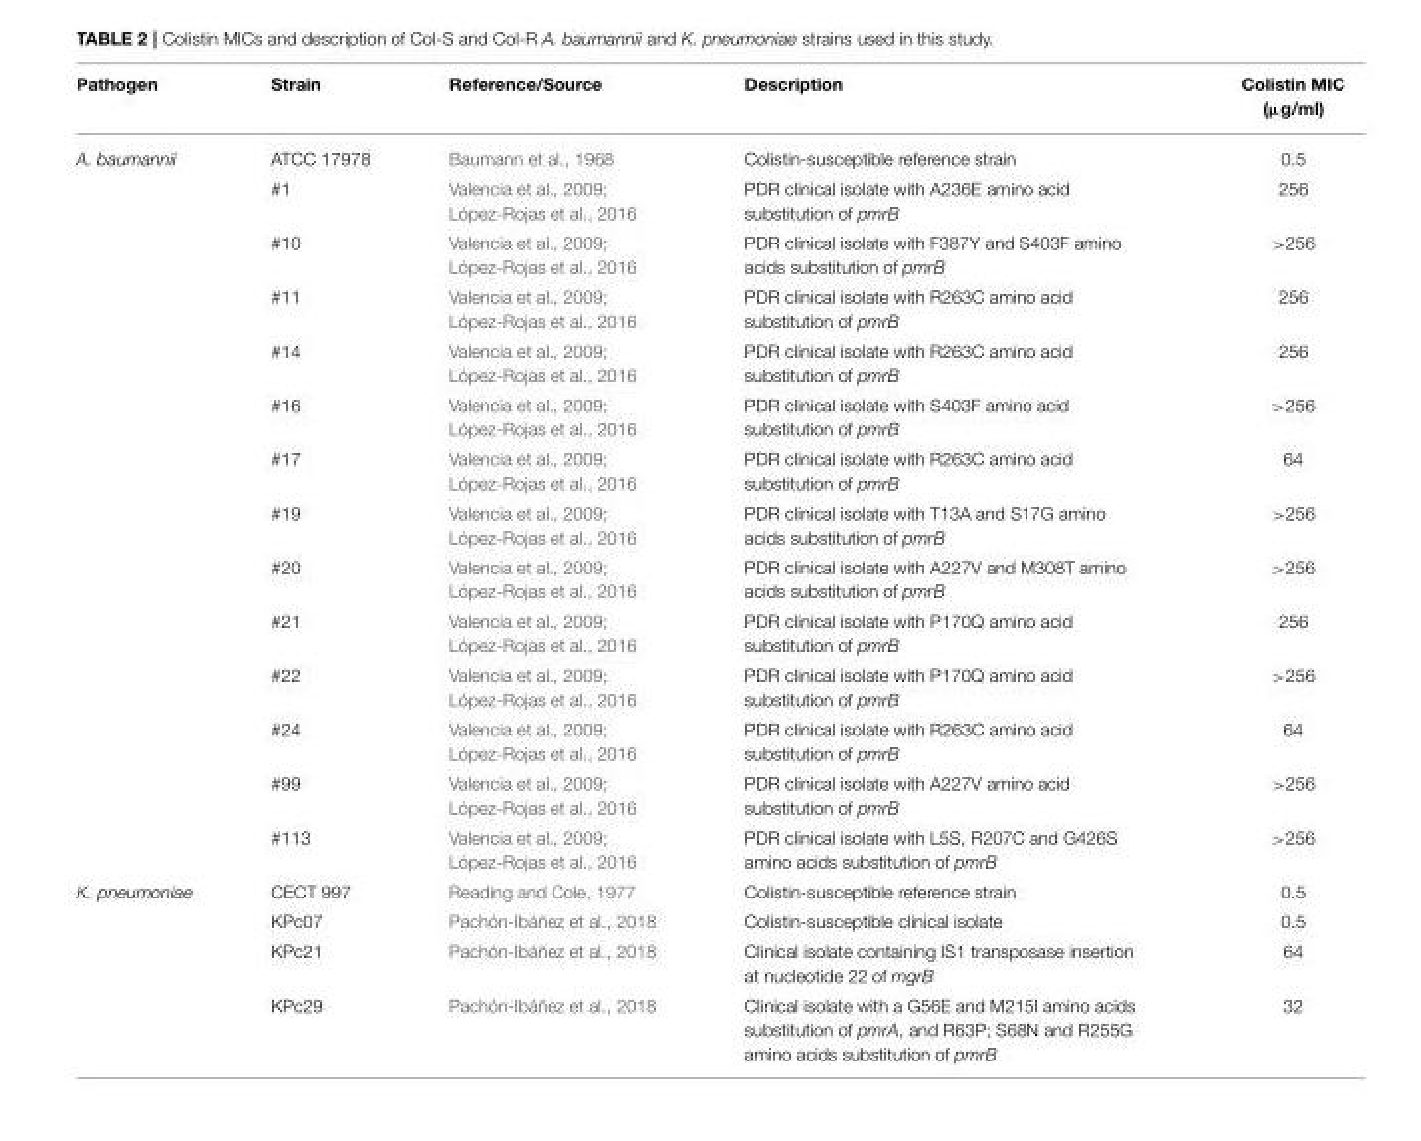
<table><thead><tr><td>Pathogen</td><td>Strain</td><td>Reference/Source</td><td>Description</td><td>Colistin MIC (µg/ml)</td></tr></thead><tbody><tr><td rowspan="14">A. baumannii</td><td>ATCC 17978</td><td>Baumann et al., 1968</td><td>Colistin-susceptible reference strain</td><td>0.5</td></tr><tr><td>#1</td><td>Valencia et al., 2009; López-Rojas et al., 2016</td><td>PDR clinical isolate with A236E amino acid substitution of pmrB</td><td>256</td></tr><tr><td>#10</td><td>Valencia et al., 2009; López-Rojas et al., 2016</td><td>PDR clinical isolate with F387Y and S403F amino acids substitution of pmrB</td><td>&gt;256</td></tr><tr><td>#11</td><td>Valencia et al., 2009; López-Rojas et al., 2016</td><td>PDR clinical isolate with R263C amino acid substitution of pmrB</td><td>256</td></tr><tr><td>#14</td><td>Valencia et al., 2009; López-Rojas et al., 2016</td><td>PDR clinical isolate with R263C amino acid substitution of pmrB</td><td>256</td></tr><tr><td>#16</td><td>Valencia et al., 2009; López-Rojas et al., 2016</td><td>PDR clinical isolate with S403F amino acid substitution of pmrB</td><td>&gt;256</td></tr><tr><td>#17</td><td>Valencia et al., 2009; López-Rojas et al., 2016</td><td>PDR clinical isolate with R263C amino acid substitution of pmrB</td><td>64</td></tr><tr><td>#19</td><td>Valencia et al., 2009; López-Rojas et al., 2016</td><td>PDR clinical isolate with T13A and S17G amino acids substitution of pmrB</td><td>&gt;256</td></tr><tr><td>#20</td><td>Valencia et al., 2009; López-Rojas et al., 2016</td><td>PDR clinical isolate with A227V and M308T amino acids substitution of pmrB</td><td>&gt;256</td></tr><tr><td>#21</td><td>Valencia et al., 2009; López-Rojas et al., 2016</td><td>PDR clinical isolate with P170Q amino acid substitution of pmrB</td><td>256</td></tr><tr><td>#22</td><td>Valencia et al., 2009; López-Rojas et al., 2016</td><td>PDR clinical isolate with P170Q amino acid substitution of pmrB</td><td>&gt;256</td></tr><tr><td>#24</td><td>Valencia et al., 2009; López-Rojas et al., 2016</td><td>PDR clinical isolate with R263C amino acid substitution of pmrB</td><td>64</td></tr><tr><td>#99</td><td>Valencia et al., 2009; López-Rojas et al., 2016</td><td>PDR clinical isolate with A227V amino acid substitution of pmrB</td><td>&gt;256</td></tr><tr><td>#113</td><td>Valencia et al., 2009; López-Rojas et al., 2016</td><td>PDR clinical isolate with L5S, R207C and G426S amino acids substitution of pmrB</td><td>&gt;256</td></tr><tr><td rowspan="4">K. pneumoniae</td><td>CECT 997</td><td>Reading and Cole, 1977</td><td>Colistin-susceptible reference strain</td><td>0.5</td></tr><tr><td>KPc07</td><td>Pachón-Ibáñez et al., 2018</td><td>Colistin-susceptible clinical isolate</td><td>0.5</td></tr><tr><td>KPc21</td><td>Pachón-Ibáñez et al., 2018</td><td>Clinical isolate containing IS1 transposase insertion at nucleotide 22 of mgrB</td><td>64</td></tr><tr><td>KPc29</td><td>Pachón-Ibáñez et al., 2018</td><td>Clinical isolate with a G56E and M215I amino acids substitution of pmrA, and R63P; S68N and R255G amino acids substitution of pmrB</td><td>32</td></tr></tbody></table>